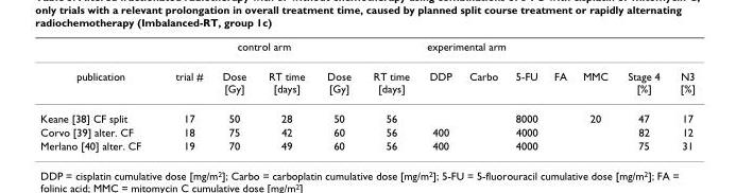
<table><thead><tr><td rowspan="2">publication</td><td rowspan="2">trial #</td><td colspan="2">control arm</td><td colspan="7">experimental arm</td><td rowspan="2">Stage 4 [%]</td><td rowspan="2">N3 [%]</td></tr><tr><td>Dose [Gy]</td><td>RT time [days]</td><td>Dose [Gy]</td><td>RT time [days]</td><td>DDP</td><td>Carbo</td><td>5-FU</td><td>FA</td><td>MMC</td></tr></thead><tbody><tr><td>Keane [38] CF split</td><td>17</td><td>50</td><td>28</td><td>50</td><td>56</td><td></td><td></td><td>8000</td><td></td><td>20</td><td>47</td><td>17</td></tr><tr><td>Corvo [39] alter. CF</td><td>18</td><td>75</td><td>42</td><td>60</td><td>56</td><td>400</td><td></td><td>4000</td><td></td><td></td><td>82</td><td>12</td></tr><tr><td>Merlano [40] alter. CF</td><td>19</td><td>70</td><td>49</td><td>60</td><td>56</td><td>400</td><td></td><td>4000</td><td></td><td></td><td>75</td><td>31</td></tr></tbody></table>